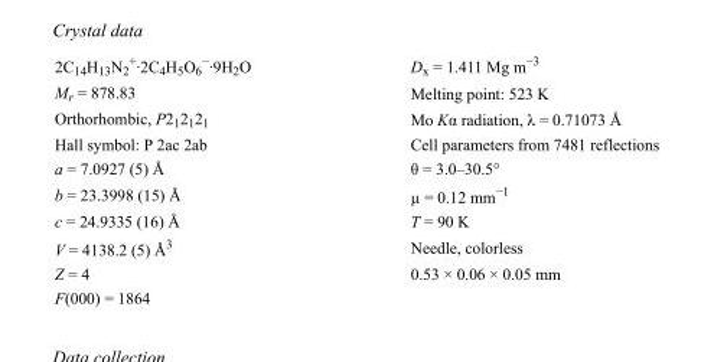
<table><tbody><tr><td>2C<sub>14</sub>H<sub>13</sub>N<sub>2</sub> <sup>+</sup>·2C<sub>4</sub>H<sub>5</sub>O<sub>6</sub> <sup>−</sup>·9H<sub>2</sub>O</td><td>D<sub>x</sub> = 1.411 Mg m<sup>−3</sup></td></tr><tr><td>M<sub>r</sub> = 878.83</td><td>Melting point: 523 K</td></tr><tr><td>Orthorhombic, P2<sub>1</sub>2<sub>1</sub>2<sub>1</sub></td><td>Mo Kα radiation, λ = 0.71073 Å</td></tr><tr><td>Hall symbol: P 2ac 2ab</td><td>Cell parameters from 7481 reflections</td></tr><tr><td>a = 7.0927 (5) Å</td><td>θ = 3.0–30.5°</td></tr><tr><td>b = 23.3998 (15) Å</td><td>µ = 0.12 mm<sup>−1</sup></td></tr><tr><td>c = 24.9335 (16) Å</td><td>T = 90 K</td></tr><tr><td>V = 4138.2 (5) Å<sup>3</sup></td><td>Needle, colorless</td></tr><tr><td>Z = 4</td><td>0.53 × 0.06 × 0.05 mm</td></tr><tr><td>F(000) = 1864</td><td></td></tr></tbody></table>